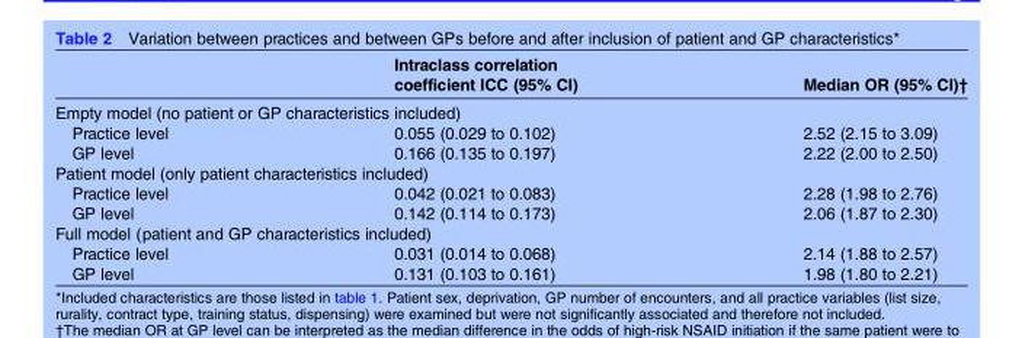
<table><thead><tr><td></td><td>Intraclass correlation coefficient ICC (95% CI)</td><td>Median OR (95% CI)†</td></tr></thead><tbody><tr><td colspan="3">Empty model (no patient or GP characteristics included)</td></tr><tr><td>Practice level</td><td>0.055 (0.029 to 0.102)</td><td>2.52 (2.15 to 3.09)</td></tr><tr><td>GP level</td><td>0.166 (0.135 to 0.197)</td><td>2.22 (2.00 to 2.50)</td></tr><tr><td colspan="3">Patient model (only patient characteristics included)</td></tr><tr><td>Practice level</td><td>0.042 (0.021 to 0.083)</td><td>2.28 (1.98 to 2.76)</td></tr><tr><td>GP level</td><td>0.142 (0.114 to 0.173)</td><td>2.06 (1.87 to 2.30)</td></tr><tr><td colspan="3">Full model (patient and GP characteristics included)</td></tr><tr><td>Practice level</td><td>0.031 (0.014 to 0.068)</td><td>2.14 (1.88 to 2.57)</td></tr><tr><td>GP level</td><td>0.131 (0.103 to 0.161)</td><td>1.98 (1.80 to 2.21)</td></tr></tbody></table>